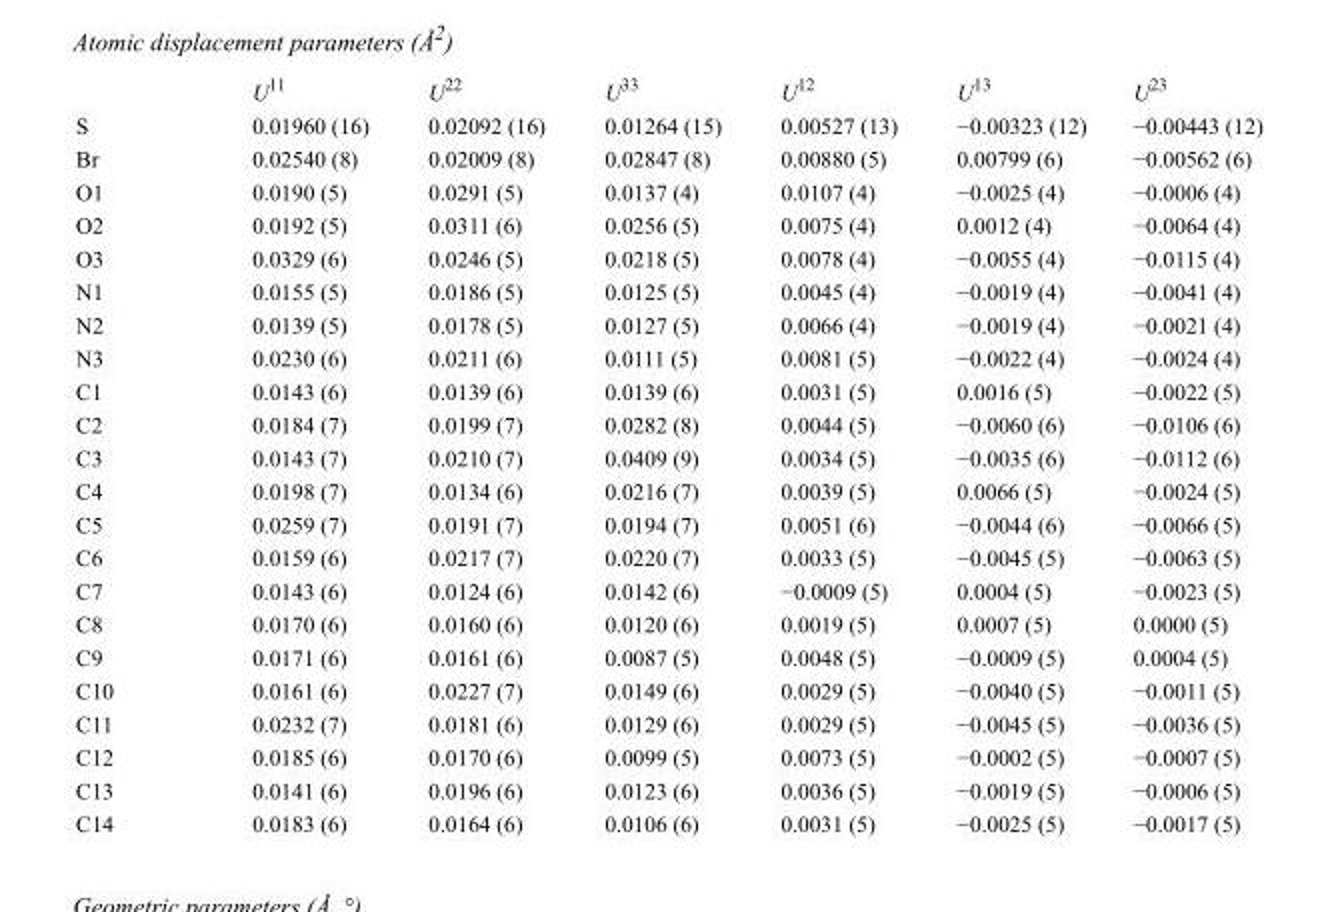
<table><thead><tr><td></td><td>U<sup>11</sup></td><td>U<sup>22</sup></td><td>U<sup>33</sup></td><td>U<sup>12</sup></td><td>U<sup>13</sup></td><td>U<sup>23</sup></td></tr></thead><tbody><tr><td>S</td><td>0.01960 (16)</td><td>0.02092 (16)</td><td>0.01264 (15)</td><td>0.00527 (13)</td><td>−0.00323 (12)</td><td>−0.00443 (12)</td></tr><tr><td>Br</td><td>0.02540 (8)</td><td>0.02009 (8)</td><td>0.02847 (8)</td><td>0.00880 (5)</td><td>0.00799 (6)</td><td>−0.00562 (6)</td></tr><tr><td>O1</td><td>0.0190 (5)</td><td>0.0291 (5)</td><td>0.0137 (4)</td><td>0.0107 (4)</td><td>−0.0025 (4)</td><td>−0.0006 (4)</td></tr><tr><td>O2</td><td>0.0192 (5)</td><td>0.0311 (6)</td><td>0.0256 (5)</td><td>0.0075 (4)</td><td>0.0012 (4)</td><td>−0.0064 (4)</td></tr><tr><td>O3</td><td>0.0329 (6)</td><td>0.0246 (5)</td><td>0.0218 (5)</td><td>0.0078 (4)</td><td>−0.0055 (4)</td><td>−0.0115 (4)</td></tr><tr><td>N1</td><td>0.0155 (5)</td><td>0.0186 (5)</td><td>0.0125 (5)</td><td>0.0045 (4)</td><td>−0.0019 (4)</td><td>−0.0041 (4)</td></tr><tr><td>N2</td><td>0.0139 (5)</td><td>0.0178 (5)</td><td>0.0127 (5)</td><td>0.0066 (4)</td><td>−0.0019 (4)</td><td>−0.0021 (4)</td></tr><tr><td>N3</td><td>0.0230 (6)</td><td>0.0211 (6)</td><td>0.0111 (5)</td><td>0.0081 (5)</td><td>−0.0022 (4)</td><td>−0.0024 (4)</td></tr><tr><td>C1</td><td>0.0143 (6)</td><td>0.0139 (6)</td><td>0.0139 (6)</td><td>0.0031 (5)</td><td>0.0016 (5)</td><td>−0.0022 (5)</td></tr><tr><td>C2</td><td>0.0184 (7)</td><td>0.0199 (7)</td><td>0.0282 (8)</td><td>0.0044 (5)</td><td>−0.0060 (6)</td><td>−0.0106 (6)</td></tr><tr><td>C3</td><td>0.0143 (7)</td><td>0.0210 (7)</td><td>0.0409 (9)</td><td>0.0034 (5)</td><td>−0.0035 (6)</td><td>−0.0112 (6)</td></tr><tr><td>C4</td><td>0.0198 (7)</td><td>0.0134 (6)</td><td>0.0216 (7)</td><td>0.0039 (5)</td><td>0.0066 (5)</td><td>−0.0024 (5)</td></tr><tr><td>C5</td><td>0.0259 (7)</td><td>0.0191 (7)</td><td>0.0194 (7)</td><td>0.0051 (6)</td><td>−0.0044 (6)</td><td>−0.0066 (5)</td></tr><tr><td>C6</td><td>0.0159 (6)</td><td>0.0217 (7)</td><td>0.0220 (7)</td><td>0.0033 (5)</td><td>−0.0045 (5)</td><td>−0.0063 (5)</td></tr><tr><td>C7</td><td>0.0143 (6)</td><td>0.0124 (6)</td><td>0.0142 (6)</td><td>−0.0009 (5)</td><td>0.0004 (5)</td><td>−0.0023 (5)</td></tr><tr><td>C8</td><td>0.0170 (6)</td><td>0.0160 (6)</td><td>0.0120 (6)</td><td>0.0019 (5)</td><td>0.0007 (5)</td><td>0.0000 (5)</td></tr><tr><td>C9</td><td>0.0171 (6)</td><td>0.0161 (6)</td><td>0.0087 (5)</td><td>0.0048 (5)</td><td>−0.0009 (5)</td><td>0.0004 (5)</td></tr><tr><td>C10</td><td>0.0161 (6)</td><td>0.0227 (7)</td><td>0.0149 (6)</td><td>0.0029 (5)</td><td>−0.0040 (5)</td><td>−0.0011 (5)</td></tr><tr><td>C11</td><td>0.0232 (7)</td><td>0.0181 (6)</td><td>0.0129 (6)</td><td>0.0029 (5)</td><td>−0.0045 (5)</td><td>−0.0036 (5)</td></tr><tr><td>C12</td><td>0.0185 (6)</td><td>0.0170 (6)</td><td>0.0099 (5)</td><td>0.0073 (5)</td><td>−0.0002 (5)</td><td>−0.0007 (5)</td></tr><tr><td>C13</td><td>0.0141 (6)</td><td>0.0196 (6)</td><td>0.0123 (6)</td><td>0.0036 (5)</td><td>−0.0019 (5)</td><td>−0.0006 (5)</td></tr><tr><td>C14</td><td>0.0183 (6)</td><td>0.0164 (6)</td><td>0.0106 (6)</td><td>0.0031 (5)</td><td>−0.0025 (5)</td><td>−0.0017 (5)</td></tr></tbody></table>